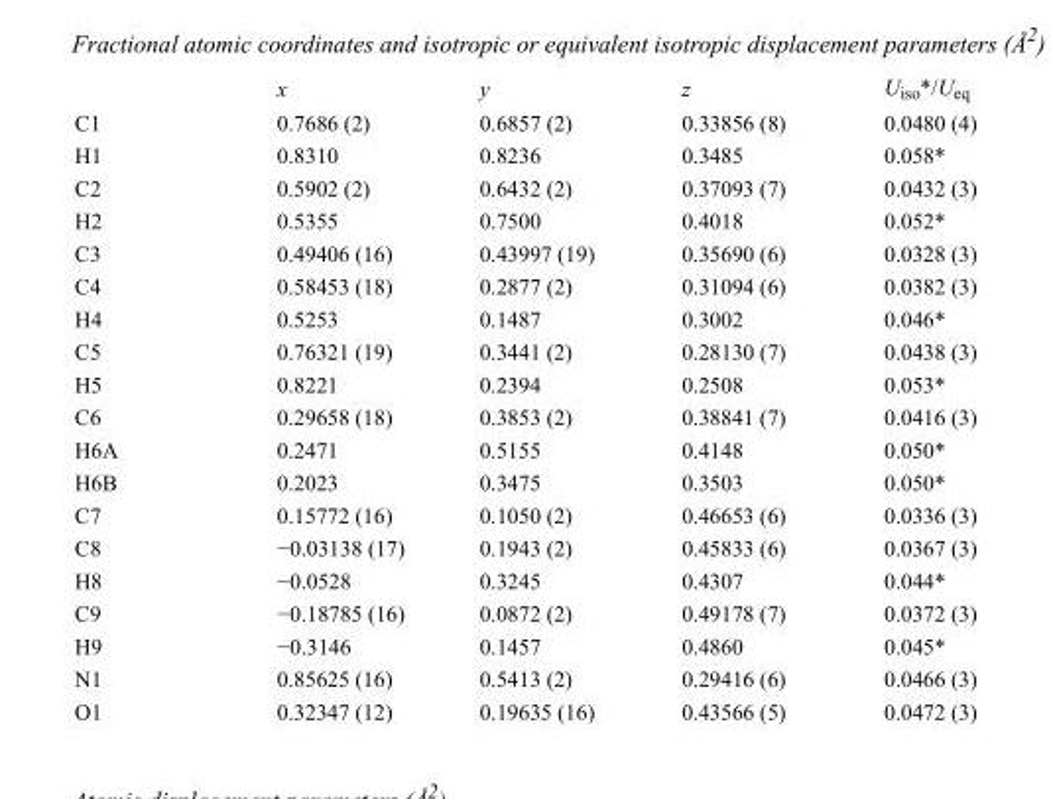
<table><thead><tr><td></td><td>x</td><td>y</td><td>z</td><td>U<sub>iso</sub>*/U<sub>eq</sub></td></tr></thead><tbody><tr><td>C1</td><td>0.7686 (2)</td><td>0.6857 (2)</td><td>0.33856 (8)</td><td>0.0480 (4)</td></tr><tr><td>H1</td><td>0.8310</td><td>0.8236</td><td>0.3485</td><td>0.058*</td></tr><tr><td>C2</td><td>0.5902 (2)</td><td>0.6432 (2)</td><td>0.37093 (7)</td><td>0.0432 (3)</td></tr><tr><td>H2</td><td>0.5355</td><td>0.7500</td><td>0.4018</td><td>0.052*</td></tr><tr><td>C3</td><td>0.49406 (16)</td><td>0.43997 (19)</td><td>0.35690 (6)</td><td>0.0328 (3)</td></tr><tr><td>C4</td><td>0.58453 (18)</td><td>0.2877 (2)</td><td>0.31094 (6)</td><td>0.0382 (3)</td></tr><tr><td>H4</td><td>0.5253</td><td>0.1487</td><td>0.3002</td><td>0.046*</td></tr><tr><td>C5</td><td>0.76321 (19)</td><td>0.3441 (2)</td><td>0.28130 (7)</td><td>0.0438 (3)</td></tr><tr><td>H5</td><td>0.8221</td><td>0.2394</td><td>0.2508</td><td>0.053*</td></tr><tr><td>C6</td><td>0.29658 (18)</td><td>0.3853 (2)</td><td>0.38841 (7)</td><td>0.0416 (3)</td></tr><tr><td>H6A</td><td>0.2471</td><td>0.5155</td><td>0.4148</td><td>0.050*</td></tr><tr><td>H6B</td><td>0.2023</td><td>0.3475</td><td>0.3503</td><td>0.050*</td></tr><tr><td>C7</td><td>0.15772 (16)</td><td>0.1050 (2)</td><td>0.46653 (6)</td><td>0.0336 (3)</td></tr><tr><td>C8</td><td>−0.03138 (17)</td><td>0.1943 (2)</td><td>0.45833 (6)</td><td>0.0367 (3)</td></tr><tr><td>H8</td><td>−0.0528</td><td>0.3245</td><td>0.4307</td><td>0.044*</td></tr><tr><td>C9</td><td>−0.18785 (16)</td><td>0.0872 (2)</td><td>0.49178 (7)</td><td>0.0372 (3)</td></tr><tr><td>H9</td><td>−0.3146</td><td>0.1457</td><td>0.4860</td><td>0.045*</td></tr><tr><td>N1</td><td>0.85625 (16)</td><td>0.5413 (2)</td><td>0.29416 (6)</td><td>0.0466 (3)</td></tr><tr><td>O1</td><td>0.32347 (12)</td><td>0.19635 (16)</td><td>0.43566 (5)</td><td>0.0472 (3)</td></tr></tbody></table>